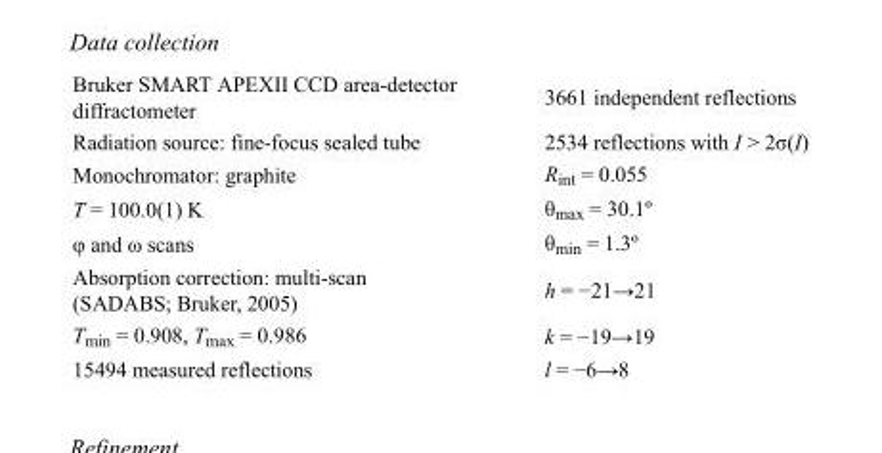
<table><tbody><tr><td>Bruker SMART APEXII CCD area-detector diffractometer</td><td>3661 independent reflections</td></tr><tr><td>Radiation source: fine-focus sealed tube</td><td>2534 reflections with I &gt; 2σ(I)</td></tr><tr><td>Monochromator: graphite</td><td>R<sub>int</sub> = 0.055</td></tr><tr><td>T = 100.0(1) K</td><td>θ<sub>max</sub> = 30.1º</td></tr><tr><td>φ and ω scans</td><td>θ<sub>min</sub> = 1.3º</td></tr><tr><td>Absorption correction: multi-scan (SADABS; Bruker, 2005)</td><td>h = −21→21</td></tr><tr><td>T<sub>min</sub> = 0.908, T<sub>max</sub> = 0.986</td><td>k = −19→19</td></tr><tr><td>15494 measured reflections</td><td>l = −6→8</td></tr></tbody></table>